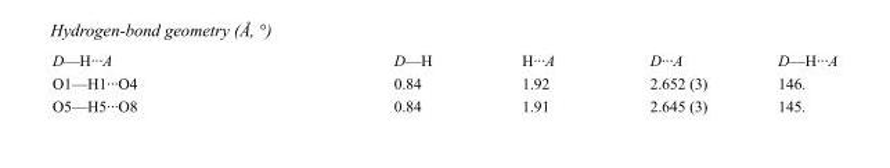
<table><tbody><tr><td>D—H···A</td><td>D—H</td><td>H···A</td><td>D···A</td><td>D—H···A</td></tr><tr><td>O1—H1···O4</td><td>0.84</td><td>1.92</td><td>2.652 (3)</td><td>146.</td></tr><tr><td>O5—H5···O8</td><td>0.84</td><td>1.91</td><td>2.645 (3)</td><td>145.</td></tr></tbody></table>